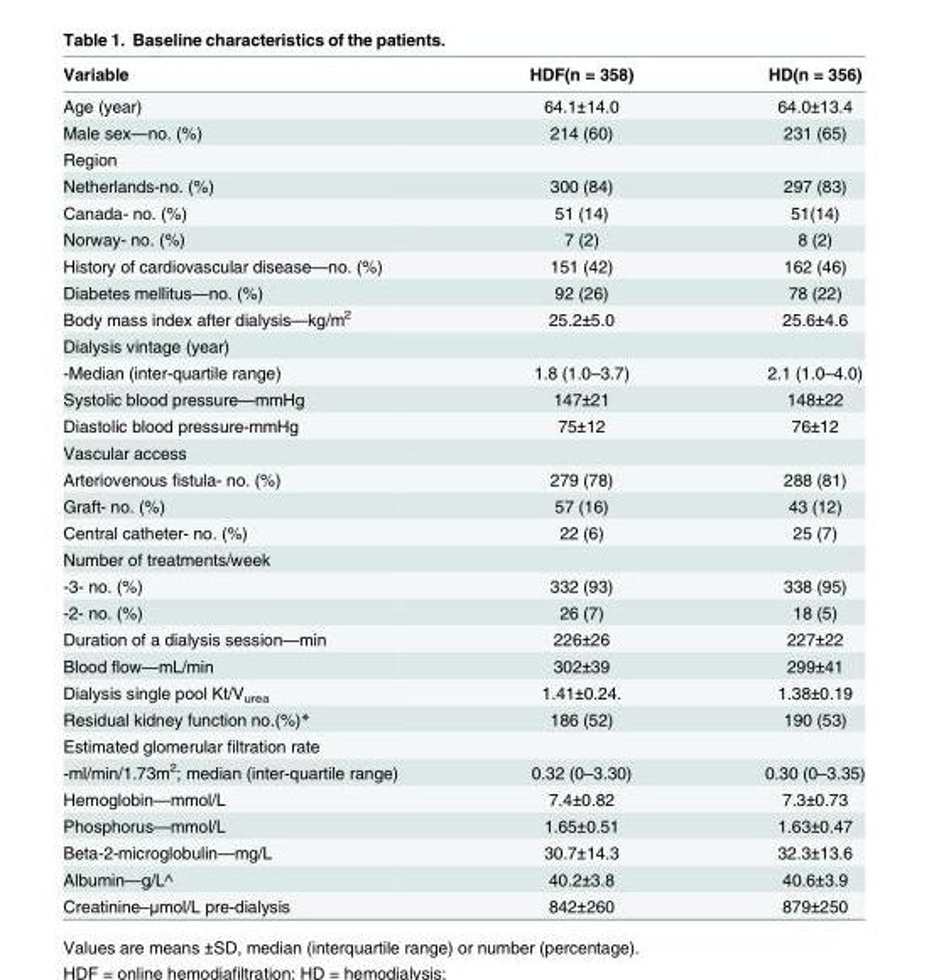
<table><thead><tr><td>Variable</td><td>HDF(n = 358)</td><td>HD(n = 356)</td></tr></thead><tbody><tr><td>Age (year)</td><td>64.1±14.0</td><td>64.0±13.4</td></tr><tr><td>Male sex—no. (%)</td><td>214 (60)</td><td>231 (65)</td></tr><tr><td colspan="3">Region</td></tr><tr><td>Netherlands-no. (%)</td><td>300 (84)</td><td>297 (83)</td></tr><tr><td>Canada- no. (%)</td><td>51 (14)</td><td>51(14)</td></tr><tr><td>Norway- no. (%)</td><td>7 (2)</td><td>8 (2)</td></tr><tr><td>History of cardiovascular disease—no. (%)</td><td>151 (42)</td><td>162 (46)</td></tr><tr><td>Diabetes mellitus—no. (%)</td><td>92 (26)</td><td>78 (22)</td></tr><tr><td>Body mass index after dialysis—kg/m<sup>2</sup></td><td>25.2±5.0</td><td>25.6±4.6</td></tr><tr><td colspan="3">Dialysis vintage (year)</td></tr><tr><td>-Median (inter-quartile range)</td><td>1.8 (1.0–3.7)</td><td>2.1 (1.0–4.0)</td></tr><tr><td>Systolic blood pressure—mmHg</td><td>147±21</td><td>148±22</td></tr><tr><td>Diastolic blood pressure-mmHg</td><td>75±12</td><td>76±12</td></tr><tr><td colspan="3">Vascular access</td></tr><tr><td>Arteriovenous fistula- no. (%)</td><td>279 (78)</td><td>288 (81)</td></tr><tr><td>Graft- no. (%)</td><td>57 (16)</td><td>43 (12)</td></tr><tr><td>Central catheter- no. (%)</td><td>22 (6)</td><td>25 (7)</td></tr><tr><td colspan="3">Number of treatments/week</td></tr><tr><td>-3- no. (%)</td><td>332 (93)</td><td>338 (95)</td></tr><tr><td>-2- no. (%)</td><td>26 (7)</td><td>18 (5)</td></tr><tr><td>Duration of a dialysis session—min</td><td>226±26</td><td>227±22</td></tr><tr><td>Blood flow—mL/min</td><td>302±39</td><td>299±41</td></tr><tr><td>Dialysis single pool Kt/V<sub>urea</sub></td><td>1.41±0.24.</td><td>1.38±0.19</td></tr><tr><td>Residual kidney function no.(%)*</td><td>186 (52)</td><td>190 (53)</td></tr><tr><td colspan="3">Estimated glomerular filtration rate</td></tr><tr><td>-ml/min/1.73m<sup>2</sup>; median (inter-quartile range)</td><td>0.32 (0–3.30)</td><td>0.30 (0–3.35)</td></tr><tr><td>Hemoglobin—mmol/L</td><td>7.4±0.82</td><td>7.3±0.73</td></tr><tr><td>Phosphorus—mmol/L</td><td>1.65±0.51</td><td>1.63±0.47</td></tr><tr><td>Beta-2-microglobulin—mg/L</td><td>30.7±14.3</td><td>32.3±13.6</td></tr><tr><td>Albumin—g/L^</td><td>40.2±3.8</td><td>40.6±3.9</td></tr><tr><td>Creatinine–μmol/L pre-dialysis</td><td>842±260</td><td>879±250</td></tr></tbody></table>